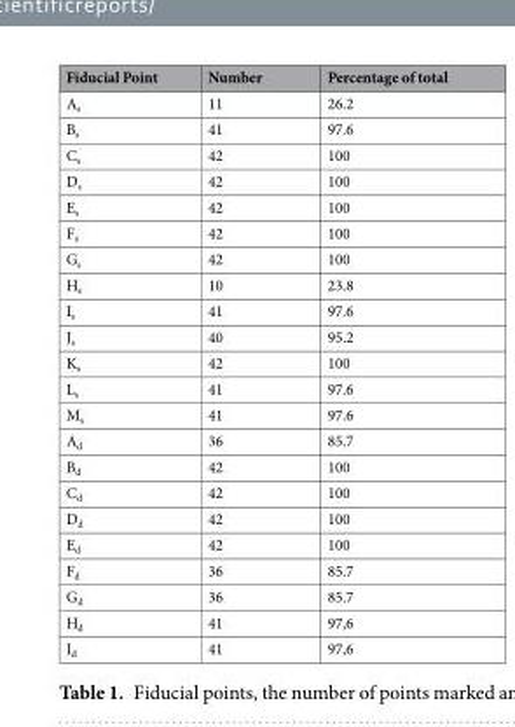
<table><thead><tr><td>Fiducial Point</td><td>Number</td><td>Percentage of total</td></tr></thead><tbody><tr><td>A<sub>s</sub></td><td>11</td><td>26.2</td></tr><tr><td>B<sub>s</sub></td><td>41</td><td>97.6</td></tr><tr><td>C<sub>s</sub></td><td>42</td><td>100</td></tr><tr><td>D<sub>s</sub></td><td>42</td><td>100</td></tr><tr><td>E<sub>s</sub></td><td>42</td><td>100</td></tr><tr><td>F<sub>s</sub></td><td>42</td><td>100</td></tr><tr><td>G<sub>s</sub></td><td>42</td><td>100</td></tr><tr><td>H<sub>s</sub></td><td>10</td><td>23.8</td></tr><tr><td>I<sub>s</sub></td><td>41</td><td>97.6</td></tr><tr><td>J<sub>s</sub></td><td>40</td><td>95.2</td></tr><tr><td>K<sub>s</sub></td><td>42</td><td>100</td></tr><tr><td>L<sub>s</sub></td><td>41</td><td>97.6</td></tr><tr><td>M<sub>s</sub></td><td>41</td><td>97.6</td></tr><tr><td>A<sub>d</sub></td><td>36</td><td>85.7</td></tr><tr><td>B<sub>d</sub></td><td>42</td><td>100</td></tr><tr><td>C<sub>d</sub></td><td>42</td><td>100</td></tr><tr><td>D<sub>d</sub></td><td>42</td><td>100</td></tr><tr><td>E<sub>d</sub></td><td>42</td><td>100</td></tr><tr><td>F<sub>d</sub></td><td>36</td><td>85.7</td></tr><tr><td>G<sub>d</sub></td><td>36</td><td>85.7</td></tr><tr><td>H<sub>d</sub></td><td>41</td><td>97,6</td></tr><tr><td>I<sub>d</sub></td><td>41</td><td>97,6</td></tr></tbody></table>